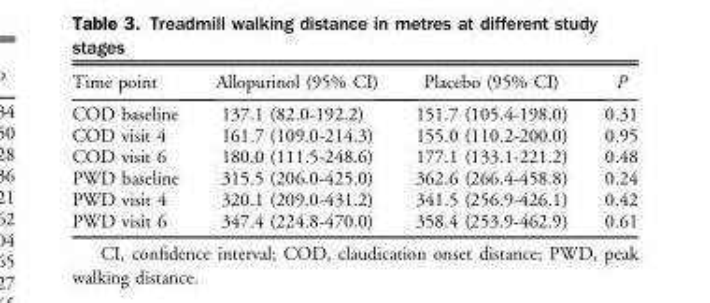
<table><thead><tr><td>Time point</td><td>Allopurinol (95% CI)</td><td>Placebo (95% CI)</td><td>P</td></tr></thead><tbody><tr><td>COD baseline</td><td>137.1 (82.0-192.2)</td><td>151.7 (105.4-198.0)</td><td>0.31</td></tr><tr><td>COD visit 4</td><td>161.7 (109.0-214.3)</td><td>155.0 (110.2-200.0)</td><td>0.95</td></tr><tr><td>COD visit 6</td><td>180.0 (111.5-248.6)</td><td>177.1 (133.1-221.2)</td><td>0.48</td></tr><tr><td>PWD baseline</td><td>315.5 (206.0-425.0)</td><td>362.6 (266.4-458.8)</td><td>0.24</td></tr><tr><td>PWD visit 4</td><td>320.1 (209.0-431.2)</td><td>341.5 (256.9-426.1)</td><td>0.42</td></tr><tr><td>PWD visit 6</td><td>347.4 (224.8-470.0)</td><td>358.4 (253.9-462.9)</td><td>0.61</td></tr></tbody></table>